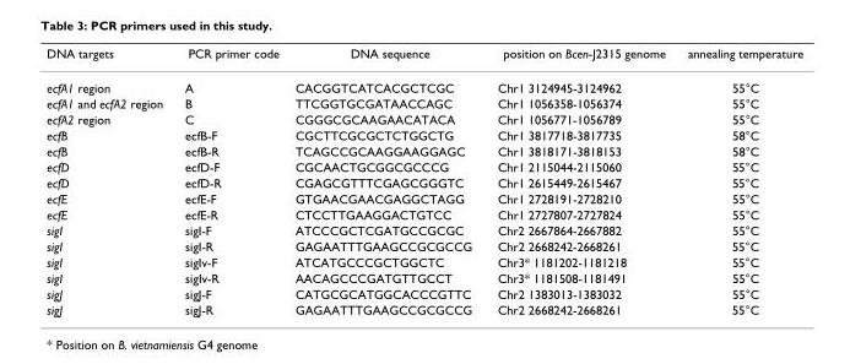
<table><thead><tr><td>DNA targets</td><td>PCR primer code</td><td>DNA sequence</td><td>position on Bcen-J2315 genome</td><td>annealing temperature</td></tr></thead><tbody><tr><td>ecfA1 region</td><td>A</td><td>CACGGTCATCACGCTCGC</td><td>Chr1 3124945-3124962</td><td>55°C</td></tr><tr><td>ecfA1 and ecfA2 region</td><td>B</td><td>TTCGGTGCGATAACCAGC</td><td>Chr1 1056358-1056374</td><td>55°C</td></tr><tr><td>ecfA2 region</td><td>C</td><td>CGGGCGCAAGAACATACA</td><td>Chr1 1056771-1056789</td><td>55°C</td></tr><tr><td>ecfB</td><td>ecfB-F</td><td>CGCTTCGCGCTCTGGCTG</td><td>Chr1 3817718-3817735</td><td>58°C</td></tr><tr><td>ecfB</td><td>ecfB-R</td><td>TCAGCCGCAAGGAAGGAGC</td><td>Chr1 3818171-3818153</td><td>58°C</td></tr><tr><td>ecfD</td><td>ecfD-F</td><td>CGCAACTGCGGCGCCCG</td><td>Chr1 2115044-2115060</td><td>55°C</td></tr><tr><td>ecfD</td><td>ecfD-R</td><td>CGAGCGTTTCGAGCGGGTC</td><td>Chr1 2615449-2615467</td><td>55°C</td></tr><tr><td>ecfE</td><td>ecfE-F</td><td>GTGAACGAACGAGGCTAGG</td><td>Chr1 2728191-2728210</td><td>55°C</td></tr><tr><td>ecfE</td><td>ecfE-R</td><td>CTCCTTGAAGGACTGTCC</td><td>Chr1 2727807-2727824</td><td>55°C</td></tr><tr><td>sigI</td><td>sigI-F</td><td>ATCCCGCTCGATGCCGCGC</td><td>Chr2 2667864-2667882</td><td>55°C</td></tr><tr><td>sigI</td><td>sigI-R</td><td>GAGAATTTGAAGCCGCGCCG</td><td>Chr2 2668242-2668261</td><td>55°C</td></tr><tr><td>sigI</td><td>sigIv-F</td><td>ATCATGCCCGCTGGCTC</td><td>Chr3* 1181202-1181218</td><td>55°C</td></tr><tr><td>sigI</td><td>sigIv-R</td><td>AACAGCCCGATGTTGCCT</td><td>Chr3* 1181508-1181491</td><td>55°C</td></tr><tr><td>sigJ</td><td>sigJ-F</td><td>CATGCGCATGGCACCCGTTC</td><td>Chr2 1383013-1383032</td><td>55°C</td></tr><tr><td>sigJ</td><td>sigJ-R</td><td>GAGAATTTGAAGCCGCGCCG</td><td>Chr2 2668242-2668261</td><td>55°C</td></tr></tbody></table>